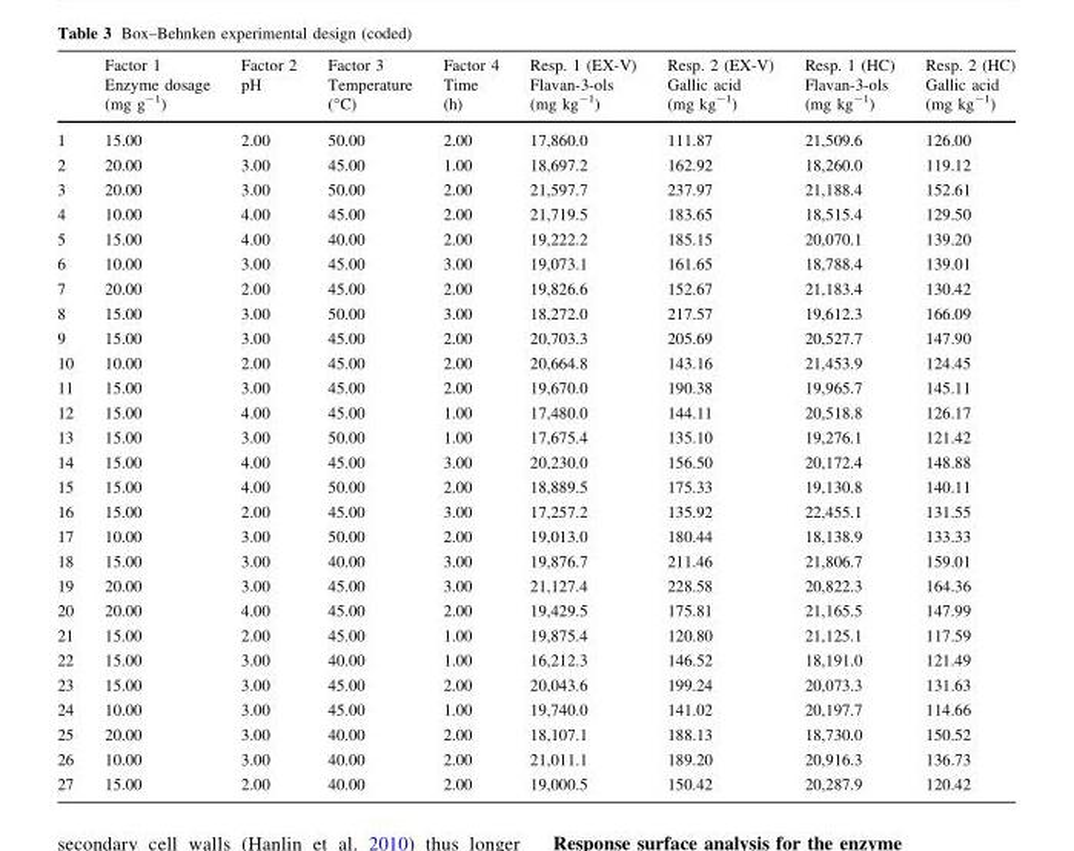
<table><thead><tr><td rowspan="2"></td><td rowspan="2">Factor 1 Enzyme dosage (mg g<sup>-1</sup>)</td><td rowspan="2">Factor 2 pH</td><td rowspan="2">Factor 3 Temperature (°C)</td><td rowspan="2">Factor 4 Time (h)</td><td rowspan="2">Resp. 1 (EX-V) Flavan-3-ols (mg kg<sup>-1</sup>)</td><td rowspan="2">Resp. 2 (EX-V) Gallic acid (mg kg<sup>-1</sup>)</td><td rowspan="2">Resp. 1 (HC) Flavan-3-ols (mg kg<sup>-1</sup>)</td><td rowspan="2">Resp. 2 (HC) Gallic acid (mg kg<sup>-1</sup>)</td></tr><tr></tr></thead><tbody><tr><td>1</td><td>15.00</td><td>2.00</td><td>50.00</td><td>2.00</td><td>17,860.0</td><td>111.87</td><td>21,509.6</td><td>126.00</td></tr><tr><td>2</td><td>20.00</td><td>3.00</td><td>45.00</td><td>1.00</td><td>18,697.2</td><td>162.92</td><td>18,260.0</td><td>119.12</td></tr><tr><td>3</td><td>20.00</td><td>3.00</td><td>50.00</td><td>2.00</td><td>21,597.7</td><td>237.97</td><td>21,188.4</td><td>152.61</td></tr><tr><td>4</td><td>10.00</td><td>4.00</td><td>45.00</td><td>2.00</td><td>21,719.5</td><td>183.65</td><td>18,515.4</td><td>129.50</td></tr><tr><td>5</td><td>15.00</td><td>4.00</td><td>40.00</td><td>2.00</td><td>19,222.2</td><td>185.15</td><td>20,070.1</td><td>139.20</td></tr><tr><td>6</td><td>10.00</td><td>3.00</td><td>45.00</td><td>3.00</td><td>19,073.1</td><td>161.65</td><td>18,788.4</td><td>139.01</td></tr><tr><td>7</td><td>20.00</td><td>2.00</td><td>45.00</td><td>2.00</td><td>19,826.6</td><td>152.67</td><td>21,183.4</td><td>130.42</td></tr><tr><td>8</td><td>15.00</td><td>3.00</td><td>50.00</td><td>3.00</td><td>18,272.0</td><td>217.57</td><td>19,612.3</td><td>166.09</td></tr><tr><td>9</td><td>15.00</td><td>3.00</td><td>45.00</td><td>2.00</td><td>20,703.3</td><td>205.69</td><td>20,527.7</td><td>147.90</td></tr><tr><td>10</td><td>10.00</td><td>2.00</td><td>45.00</td><td>2.00</td><td>20,664.8</td><td>143.16</td><td>21,453.9</td><td>124.45</td></tr><tr><td>11</td><td>15.00</td><td>3.00</td><td>45.00</td><td>2.00</td><td>19,670.0</td><td>190.38</td><td>19,965.7</td><td>145.11</td></tr><tr><td>12</td><td>15.00</td><td>4.00</td><td>45.00</td><td>1.00</td><td>17,480.0</td><td>144.11</td><td>20,518.8</td><td>126.17</td></tr><tr><td>13</td><td>15.00</td><td>3.00</td><td>50.00</td><td>1.00</td><td>17,675.4</td><td>135.10</td><td>19,276.1</td><td>121.42</td></tr><tr><td>14</td><td>15.00</td><td>4.00</td><td>45.00</td><td>3.00</td><td>20,230.0</td><td>156.50</td><td>20,172.4</td><td>148.88</td></tr><tr><td>15</td><td>15.00</td><td>4.00</td><td>50.00</td><td>2.00</td><td>18,889.5</td><td>175.33</td><td>19,130.8</td><td>140.11</td></tr><tr><td>16</td><td>15.00</td><td>2.00</td><td>45.00</td><td>3.00</td><td>17,257.2</td><td>135.92</td><td>22,455.1</td><td>131.55</td></tr><tr><td>17</td><td>10.00</td><td>3.00</td><td>50.00</td><td>2.00</td><td>19,013.0</td><td>180.44</td><td>18,138.9</td><td>133.33</td></tr><tr><td>18</td><td>15.00</td><td>3.00</td><td>40.00</td><td>3.00</td><td>19,876.7</td><td>211.46</td><td>21,806.7</td><td>159.01</td></tr><tr><td>19</td><td>20.00</td><td>3.00</td><td>45.00</td><td>3.00</td><td>21,127.4</td><td>228.58</td><td>20,822.3</td><td>164.36</td></tr><tr><td>20</td><td>20.00</td><td>4.00</td><td>45.00</td><td>2.00</td><td>19,429.5</td><td>175.81</td><td>21,165.5</td><td>147.99</td></tr><tr><td>21</td><td>15.00</td><td>2.00</td><td>45.00</td><td>1.00</td><td>19,875.4</td><td>120.80</td><td>21,125.1</td><td>117.59</td></tr><tr><td>22</td><td>15.00</td><td>3.00</td><td>40.00</td><td>1.00</td><td>16,212.3</td><td>146.52</td><td>18,191.0</td><td>121.49</td></tr><tr><td>23</td><td>15.00</td><td>3.00</td><td>45.00</td><td>2.00</td><td>20,043.6</td><td>199.24</td><td>20,073.3</td><td>131.63</td></tr><tr><td>24</td><td>10.00</td><td>3.00</td><td>45.00</td><td>1.00</td><td>19,740.0</td><td>141.02</td><td>20,197.7</td><td>114.66</td></tr><tr><td>25</td><td>20.00</td><td>3.00</td><td>40.00</td><td>2.00</td><td>18,107.1</td><td>188.13</td><td>18,730.0</td><td>150.52</td></tr><tr><td>26</td><td>10.00</td><td>3.00</td><td>40.00</td><td>2.00</td><td>21,011.1</td><td>189.20</td><td>20,916.3</td><td>136.73</td></tr><tr><td>27</td><td>15.00</td><td>2.00</td><td>40.00</td><td>2.00</td><td>19,000.5</td><td>150.42</td><td>20,287.9</td><td>120.42</td></tr></tbody></table>